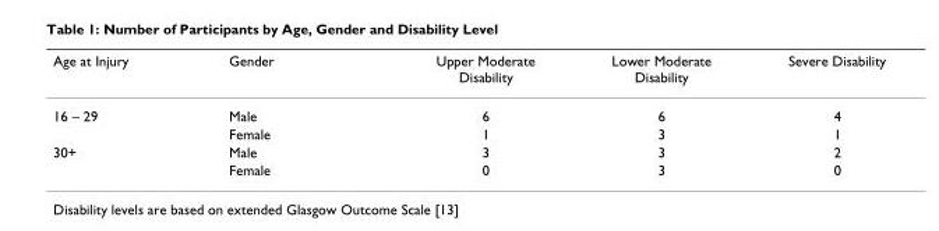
<table><thead><tr><td>Age at Injury</td><td>Gender</td><td>Upper Moderate Disability</td><td>Lower Moderate Disability</td><td>Severe Disability</td></tr></thead><tbody><tr><td rowspan="2">16 – 29</td><td>Male</td><td>6</td><td>6</td><td>4</td></tr><tr><td>Female</td><td>1</td><td>3</td><td>1</td></tr><tr><td rowspan="2">30+</td><td>Male</td><td>3</td><td>3</td><td>2</td></tr><tr><td>Female</td><td>0</td><td>3</td><td>0</td></tr></tbody></table>